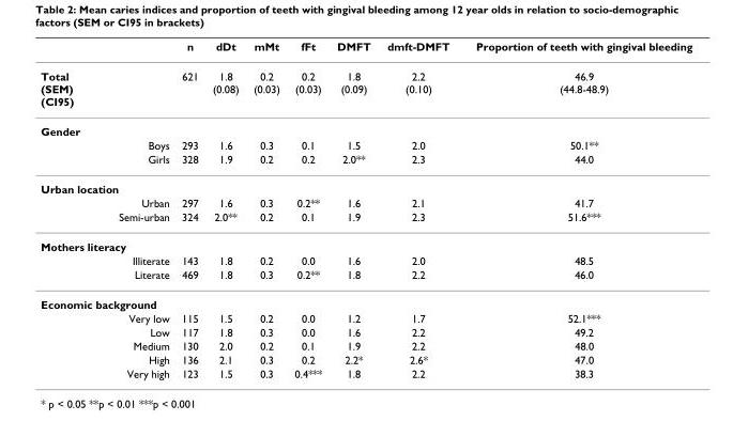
<table><thead><tr><td></td><td>n</td><td>dDt</td><td>mMt</td><td>fFt</td><td>DMFT</td><td>dmft-DMFT</td><td>Proportion of teeth with gingival bleeding</td></tr></thead><tbody><tr><td>Total (SEM) (CI95)</td><td>621</td><td>1.8 (0.08)</td><td>0.2 (0.03)</td><td>0.2 (0.03)</td><td>1.8 (0.09)</td><td>2.2 (0.10)</td><td>46.9 (44.8-48.9)</td></tr><tr><td colspan="8">Gender</td></tr><tr><td>Boys</td><td>293</td><td>1.6</td><td>0.3</td><td>0.1</td><td>1.5</td><td>2.0</td><td>50.1**</td></tr><tr><td>Girls</td><td>328</td><td>1.9</td><td>0.2</td><td>0.2</td><td>2.0**</td><td>2.3</td><td>44.0</td></tr><tr><td colspan="8">Urban location</td></tr><tr><td>Urban</td><td>297</td><td>1.6</td><td>0.3</td><td>0.2**</td><td>1.6</td><td>2.1</td><td>41.7</td></tr><tr><td>Semi-urban</td><td>324</td><td>2.0**</td><td>0.2</td><td>0.1</td><td>1.9</td><td>2.3</td><td>51.6***</td></tr><tr><td colspan="8">Mothers literacy</td></tr><tr><td>Illiterate</td><td>143</td><td>1.8</td><td>0.2</td><td>0.0</td><td>1.6</td><td>2.0</td><td>48.5</td></tr><tr><td>Literate</td><td>469</td><td>1.8</td><td>0.3</td><td>0.2**</td><td>1.8</td><td>2.2</td><td>46.0</td></tr><tr><td colspan="8">Economic background</td></tr><tr><td>Very low</td><td>115</td><td>1.5</td><td>0.2</td><td>0.0</td><td>1.2</td><td>1.7</td><td>52.1***</td></tr><tr><td>Low</td><td>117</td><td>1.8</td><td>0.3</td><td>0.0</td><td>1.6</td><td>2.2</td><td>49.2</td></tr><tr><td>Medium</td><td>130</td><td>2.0</td><td>0.2</td><td>0.1</td><td>1.9</td><td>2.2</td><td>48.0</td></tr><tr><td>High</td><td>136</td><td>2.1</td><td>0.3</td><td>0.2</td><td>2.2*</td><td>2.6*</td><td>47.0</td></tr><tr><td>Very high</td><td>123</td><td>1.5</td><td>0.3</td><td>0.4***</td><td>1.8</td><td>2.2</td><td>38.3</td></tr></tbody></table>